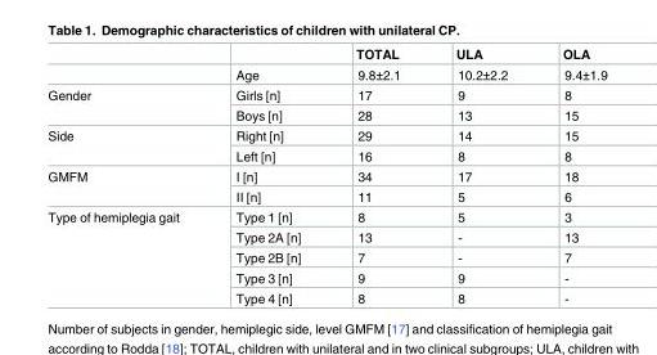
<table><thead><tr><td></td><td></td><td>TOTAL</td><td>ULA</td><td>OLA</td></tr></thead><tbody><tr><td></td><td>Age</td><td>9.8±2.1</td><td>10.2±2.2</td><td>9.4±1.9</td></tr><tr><td rowspan="2">Gender</td><td>Girls [n]</td><td>17</td><td>9</td><td>8</td></tr><tr><td>Boys [n]</td><td>28</td><td>13</td><td>15</td></tr><tr><td rowspan="2">Side</td><td>Right [n]</td><td>29</td><td>14</td><td>15</td></tr><tr><td>Left [n]</td><td>16</td><td>8</td><td>8</td></tr><tr><td rowspan="2">GMFM</td><td>I [n]</td><td>34</td><td>17</td><td>18</td></tr><tr><td>II [n]</td><td>11</td><td>5</td><td>6</td></tr><tr><td rowspan="5">Type of hemiplegia gait</td><td>Type 1 [n]</td><td>8</td><td>5</td><td>3</td></tr><tr><td>Type 2A [n]</td><td>13</td><td>-</td><td>13</td></tr><tr><td>Type 2B [n]</td><td>7</td><td>-</td><td>7</td></tr><tr><td>Type 3 [n]</td><td>9</td><td>9</td><td>-</td></tr><tr><td>Type 4 [n]</td><td>8</td><td>8</td><td>-</td></tr></tbody></table>